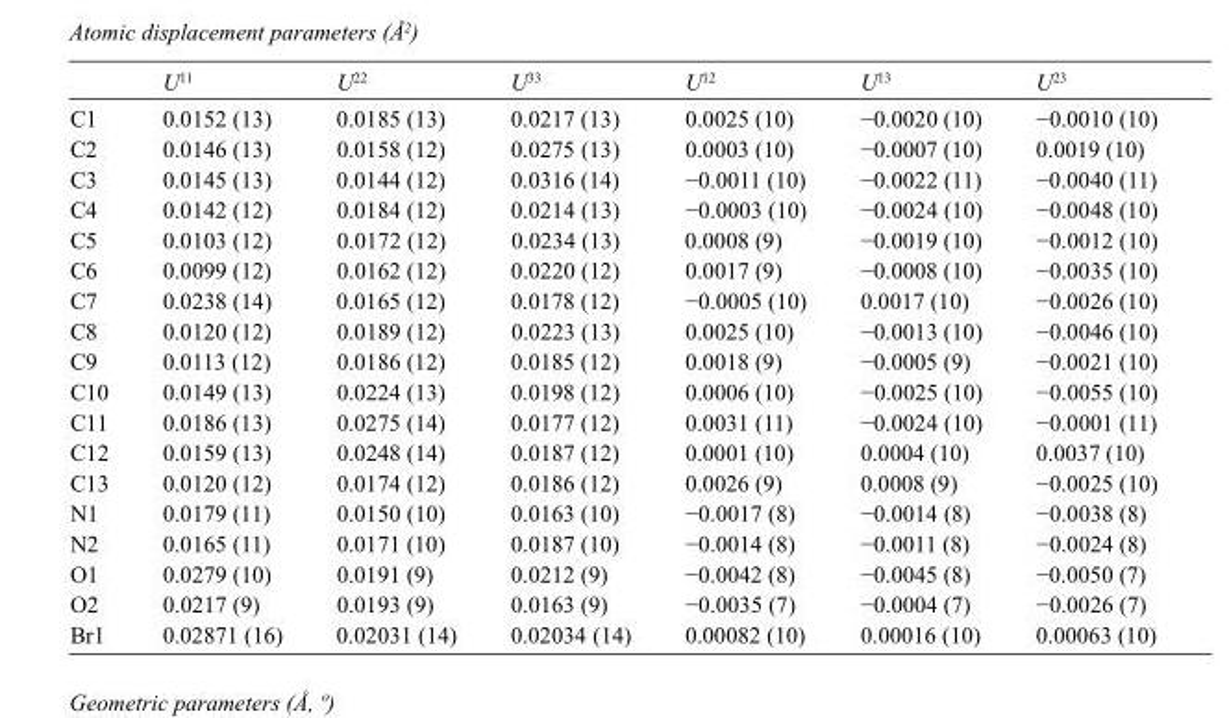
<table><thead><tr><td></td><td>U<sup>11</sup></td><td>U<sup>22</sup></td><td>U<sup>33</sup></td><td>U<sup>12</sup></td><td>U<sup>13</sup></td><td>U<sup>23</sup></td></tr></thead><tbody><tr><td>C1</td><td>0.0152 (13)</td><td>0.0185 (13)</td><td>0.0217 (13)</td><td>0.0025 (10)</td><td>−0.0020 (10)</td><td>−0.0010 (10)</td></tr><tr><td>C2</td><td>0.0146 (13)</td><td>0.0158 (12)</td><td>0.0275 (13)</td><td>0.0003 (10)</td><td>−0.0007 (10)</td><td>0.0019 (10)</td></tr><tr><td>C3</td><td>0.0145 (13)</td><td>0.0144 (12)</td><td>0.0316 (14)</td><td>−0.0011 (10)</td><td>−0.0022 (11)</td><td>−0.0040 (11)</td></tr><tr><td>C4</td><td>0.0142 (12)</td><td>0.0184 (12)</td><td>0.0214 (13)</td><td>−0.0003 (10)</td><td>−0.0024 (10)</td><td>−0.0048 (10)</td></tr><tr><td>C5</td><td>0.0103 (12)</td><td>0.0172 (12)</td><td>0.0234 (13)</td><td>0.0008 (9)</td><td>−0.0019 (10)</td><td>−0.0012 (10)</td></tr><tr><td>C6</td><td>0.0099 (12)</td><td>0.0162 (12)</td><td>0.0220 (12)</td><td>0.0017 (9)</td><td>−0.0008 (10)</td><td>−0.0035 (10)</td></tr><tr><td>C7</td><td>0.0238 (14)</td><td>0.0165 (12)</td><td>0.0178 (12)</td><td>−0.0005 (10)</td><td>0.0017 (10)</td><td>−0.0026 (10)</td></tr><tr><td>C8</td><td>0.0120 (12)</td><td>0.0189 (12)</td><td>0.0223 (13)</td><td>0.0025 (10)</td><td>−0.0013 (10)</td><td>−0.0046 (10)</td></tr><tr><td>C9</td><td>0.0113 (12)</td><td>0.0186 (12)</td><td>0.0185 (12)</td><td>0.0018 (9)</td><td>−0.0005 (9)</td><td>−0.0021 (10)</td></tr><tr><td>C10</td><td>0.0149 (13)</td><td>0.0224 (13)</td><td>0.0198 (12)</td><td>0.0006 (10)</td><td>−0.0025 (10)</td><td>−0.0055 (10)</td></tr><tr><td>C11</td><td>0.0186 (13)</td><td>0.0275 (14)</td><td>0.0177 (12)</td><td>0.0031 (11)</td><td>−0.0024 (10)</td><td>−0.0001 (11)</td></tr><tr><td>C12</td><td>0.0159 (13)</td><td>0.0248 (14)</td><td>0.0187 (12)</td><td>0.0001 (10)</td><td>0.0004 (10)</td><td>0.0037 (10)</td></tr><tr><td>C13</td><td>0.0120 (12)</td><td>0.0174 (12)</td><td>0.0186 (12)</td><td>0.0026 (9)</td><td>0.0008 (9)</td><td>−0.0025 (10)</td></tr><tr><td>N1</td><td>0.0179 (11)</td><td>0.0150 (10)</td><td>0.0163 (10)</td><td>−0.0017 (8)</td><td>−0.0014 (8)</td><td>−0.0038 (8)</td></tr><tr><td>N2</td><td>0.0165 (11)</td><td>0.0171 (10)</td><td>0.0187 (10)</td><td>−0.0014 (8)</td><td>−0.0011 (8)</td><td>−0.0024 (8)</td></tr><tr><td>O1</td><td>0.0279 (10)</td><td>0.0191 (9)</td><td>0.0212 (9)</td><td>−0.0042 (8)</td><td>−0.0045 (8)</td><td>−0.0050 (7)</td></tr><tr><td>O2</td><td>0.0217 (9)</td><td>0.0193 (9)</td><td>0.0163 (9)</td><td>−0.0035 (7)</td><td>−0.0004 (7)</td><td>−0.0026 (7)</td></tr><tr><td>Br1</td><td>0.02871 (16)</td><td>0.02031 (14)</td><td>0.02034 (14)</td><td>0.00082 (10)</td><td>0.00016 (10)</td><td>0.00063 (10)</td></tr></tbody></table>